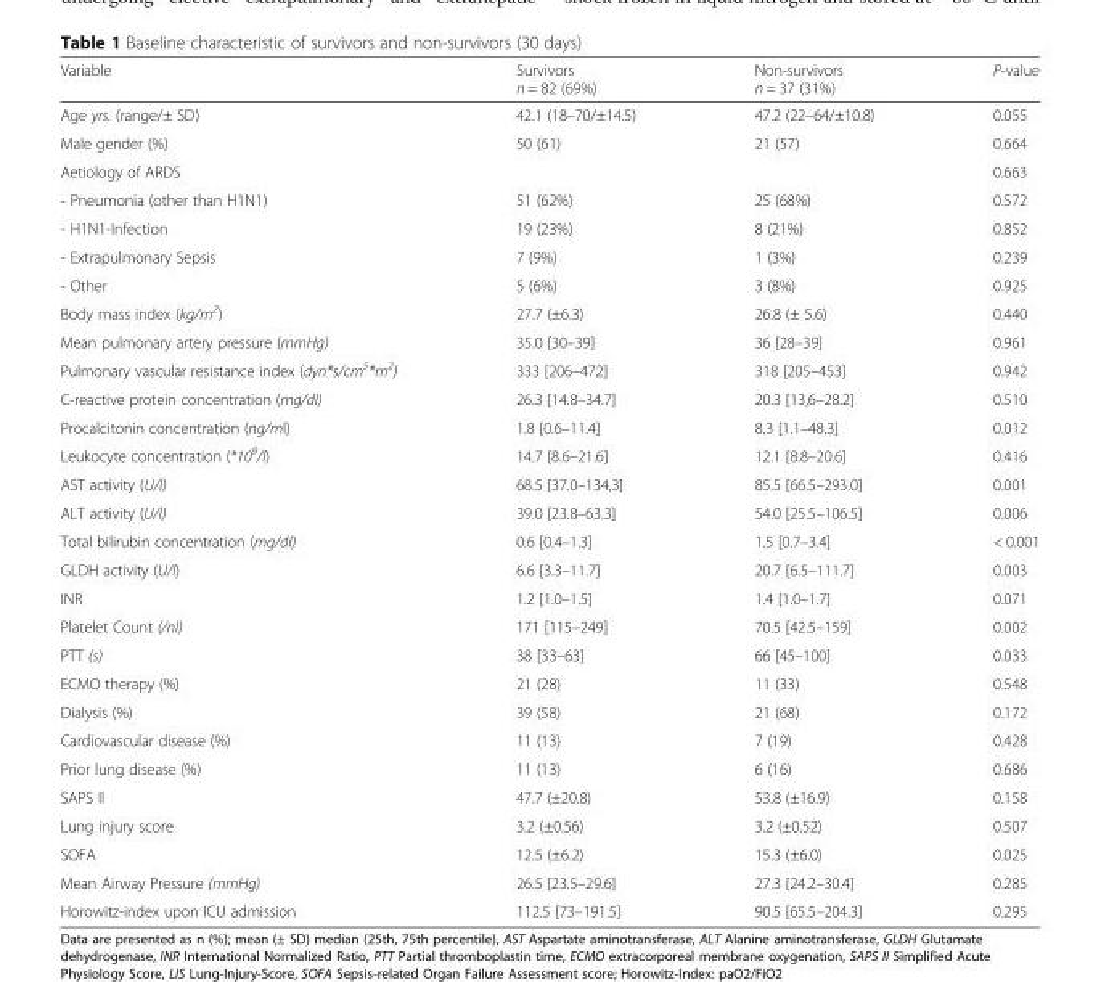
<table><thead><tr><td>Variable</td><td>Survivors n = 82 (69%)</td><td>Non-survivors n = 37 (31%)</td><td>P-value</td></tr></thead><tbody><tr><td>Age yrs. (range/± SD)</td><td>42.1 (18–70/±14.5)</td><td>47.2 (22–64/±10.8)</td><td>0.055</td></tr><tr><td>Male gender (%)</td><td>50 (61)</td><td>21 (57)</td><td>0.664</td></tr><tr><td>Aetiology of ARDS</td><td></td><td></td><td>0.663</td></tr><tr><td>- Pneumonia (other than H1N1)</td><td>51 (62%)</td><td>25 (68%)</td><td>0.572</td></tr><tr><td>- H1N1-Infection</td><td>19 (23%)</td><td>8 (21%)</td><td>0.852</td></tr><tr><td>- Extrapulmonary Sepsis</td><td>7 (9%)</td><td>1 (3%)</td><td>0.239</td></tr><tr><td>- Other</td><td>5 (6%)</td><td>3 (8%)</td><td>0.925</td></tr><tr><td>Body mass index (kg/m<sup>2</sup>)</td><td>27.7 (±6.3)</td><td>26.8 (± 5.6)</td><td>0.440</td></tr><tr><td>Mean pulmonary artery pressure (mmHg)</td><td>35.0 [30–39]</td><td>36 [28–39]</td><td>0.961</td></tr><tr><td>Pulmonary vascular resistance index (dyn*s/cm<sup>5</sup>*m<sup>2</sup>)</td><td>333 [206–472]</td><td>318 [205–453]</td><td>0.942</td></tr><tr><td>C-reactive protein concentration (mg/dl)</td><td>26.3 [14.8–34.7]</td><td>20.3 [13,6–28.2]</td><td>0.510</td></tr><tr><td>Procalcitonin concentration (ng/ml)</td><td>1.8 [0.6–11.4]</td><td>8.3 [1.1–48.3]</td><td>0.012</td></tr><tr><td>Leukocyte concentration (*10<sup>9</sup>/l)</td><td>14.7 [8.6–21.6]</td><td>12.1 [8.8–20.6]</td><td>0.416</td></tr><tr><td>AST activity (U/l)</td><td>68.5 [37.0–134,3]</td><td>85.5 [66.5–293.0]</td><td>0.001</td></tr><tr><td>ALT activity (U/l)</td><td>39.0 [23.8–63.3]</td><td>54.0 [25.5–106.5]</td><td>0.006</td></tr><tr><td>Total bilirubin concentration (mg/dl)</td><td>0.6 [0.4–1.3]</td><td>1.5 [0.7–3.4]</td><td>&lt; 0.001</td></tr><tr><td>GLDH activity (U/l)</td><td>6.6 [3.3–11.7]</td><td>20.7 [6.5–111.7]</td><td>0.003</td></tr><tr><td>INR</td><td>1.2 [1.0–1.5]</td><td>1.4 [1.0–1.7]</td><td>0.071</td></tr><tr><td>Platelet Count (/nl)</td><td>171 [115–249]</td><td>70.5 [42.5–159]</td><td>0.002</td></tr><tr><td>PTT (s)</td><td>38 [33–63]</td><td>66 [45–100]</td><td>0.033</td></tr><tr><td>ECMO therapy (%)</td><td>21 (28)</td><td>11 (33)</td><td>0.548</td></tr><tr><td>Dialysis (%)</td><td>39 (58)</td><td>21 (68)</td><td>0.172</td></tr><tr><td>Cardiovascular disease (%)</td><td>11 (13)</td><td>7 (19)</td><td>0.428</td></tr><tr><td>Prior lung disease (%)</td><td>11 (13)</td><td>6 (16)</td><td>0.686</td></tr><tr><td>SAPS II</td><td>47.7 (±20.8)</td><td>53.8 (±16.9)</td><td>0.158</td></tr><tr><td>Lung injury score</td><td>3.2 (±0.56)</td><td>3.2 (±0.52)</td><td>0.507</td></tr><tr><td>SOFA</td><td>12.5 (±6.2)</td><td>15.3 (±6.0)</td><td>0.025</td></tr><tr><td>Mean Airway Pressure (mmHg)</td><td>26.5 [23.5–29.6]</td><td>27.3 [24.2–30.4]</td><td>0.285</td></tr><tr><td>Horowitz-index upon ICU admission</td><td>112.5 [73–191.5]</td><td>90.5 [65.5–204.3]</td><td>0.295</td></tr></tbody></table>